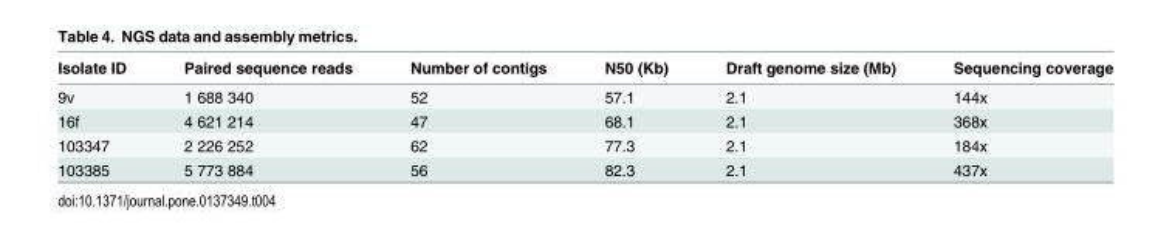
<table><thead><tr><td>Isolate ID</td><td>Paired sequence reads</td><td>Number of contigs</td><td>N50 (Kb)</td><td>Draft genome size (Mb)</td><td>Sequencing coverage</td></tr></thead><tbody><tr><td>9v</td><td>1 688 340</td><td>52</td><td>57.1</td><td>2.1</td><td>144x</td></tr><tr><td>16f</td><td>4 621 214</td><td>47</td><td>68.1</td><td>2.1</td><td>368x</td></tr><tr><td>103347</td><td>2 226 252</td><td>62</td><td>77.3</td><td>2.1</td><td>184x</td></tr><tr><td>103385</td><td>5 773 884</td><td>56</td><td>82.3</td><td>2.1</td><td>437x</td></tr></tbody></table>